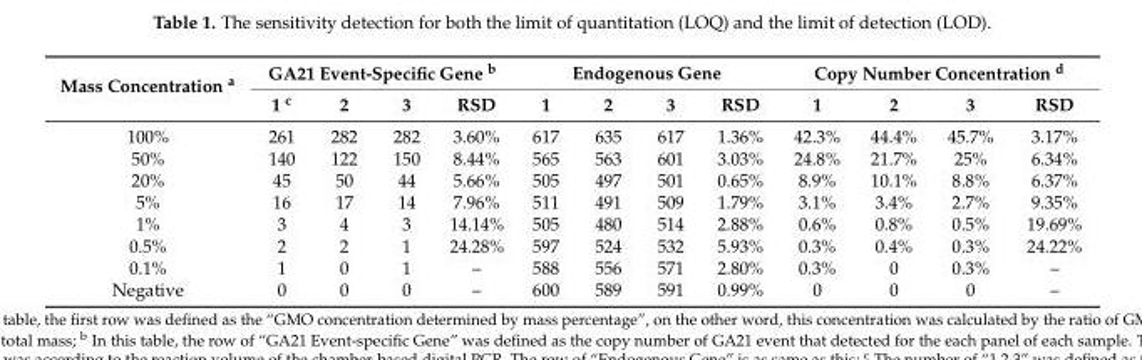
<table><thead><tr><td rowspan="2">Mass Concentration <sup>a</sup></td><td colspan="4">GA21 Event-Specific Gene <sup>b</sup></td><td colspan="4">Endogenous Gene</td><td colspan="4">Copy Number Concentration <sup>d</sup></td></tr><tr><td>1 <sup>c</sup></td><td>2</td><td>3</td><td>RSD</td><td>1</td><td>2</td><td>3</td><td>RSD</td><td>1</td><td>2</td><td>3</td><td>RSD</td></tr></thead><tbody><tr><td>100%</td><td>261</td><td>282</td><td>282</td><td>3.60%</td><td>617</td><td>635</td><td>617</td><td>1.36%</td><td>42.3%</td><td>44.4%</td><td>45.7%</td><td>3.17%</td></tr><tr><td>50%</td><td>140</td><td>122</td><td>150</td><td>8.44%</td><td>565</td><td>563</td><td>601</td><td>3.03%</td><td>24.8%</td><td>21.7%</td><td>25%</td><td>6.34%</td></tr><tr><td>20%</td><td>45</td><td>50</td><td>44</td><td>5.66%</td><td>505</td><td>497</td><td>501</td><td>0.65%</td><td>8.9%</td><td>10.1%</td><td>8.8%</td><td>6.37%</td></tr><tr><td>5%</td><td>16</td><td>17</td><td>14</td><td>7.96%</td><td>511</td><td>491</td><td>509</td><td>1.79%</td><td>3.1%</td><td>3.4%</td><td>2.7%</td><td>9.35%</td></tr><tr><td>1%</td><td>3</td><td>4</td><td>3</td><td>14.14%</td><td>505</td><td>480</td><td>514</td><td>2.88%</td><td>0.6%</td><td>0.8%</td><td>0.5%</td><td>19.69%</td></tr><tr><td>0.5%</td><td>2</td><td>2</td><td>1</td><td>24.28%</td><td>597</td><td>524</td><td>532</td><td>5.93%</td><td>0.3%</td><td>0.4%</td><td>0.3%</td><td>24.22%</td></tr><tr><td>0.1%</td><td>1</td><td>0</td><td>1</td><td>–</td><td>588</td><td>556</td><td>571</td><td>2.80%</td><td>0.3%</td><td>0</td><td>0.3%</td><td>–</td></tr><tr><td>Negative</td><td>0</td><td>0</td><td>0</td><td>–</td><td>600</td><td>589</td><td>591</td><td>0.99%</td><td>0</td><td>0</td><td>0</td><td>–</td></tr></tbody></table>